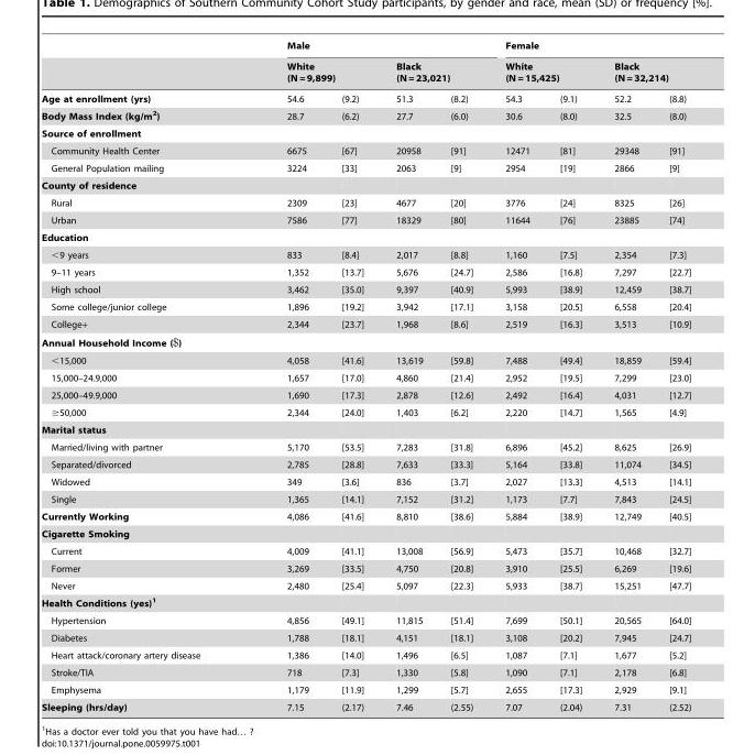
<table><thead><tr><td rowspan="3">Age at enrollment (yrs)</td><td colspan="4">Male</td><td colspan="4">Female</td></tr><tr><td colspan="2">White (N = 9,899)</td><td colspan="2">Black (N = 23,021)</td><td colspan="2">White (N = 15,425)</td><td colspan="2">Black (N = 32,214)</td></tr><tr><td>54.6</td><td>(9.2)</td><td>51.3</td><td>(8.2)</td><td>54.3</td><td>(9.1)</td><td>52.2</td><td>(8.8)</td></tr></thead><tbody><tr><td>Body Mass Index (kg/m<sup>2</sup>)</td><td>28.7</td><td>(6.2)</td><td>27.7</td><td>(6.0)</td><td>30.6</td><td>(8.0)</td><td>32.5</td><td>(8.0)</td></tr><tr><td colspan="9">Source of enrollment</td></tr><tr><td>Community Health Center</td><td>6675</td><td>[67]</td><td>20958</td><td>[91]</td><td>12471</td><td>[81]</td><td>29348</td><td>[91]</td></tr><tr><td>General Population mailing</td><td>3224</td><td>[33]</td><td>2063</td><td>[9]</td><td>2954</td><td>[19]</td><td>2866</td><td>[9]</td></tr><tr><td colspan="9">County of residence</td></tr><tr><td>Rural</td><td>2309</td><td>[23]</td><td>4677</td><td>[20]</td><td>3776</td><td>[24]</td><td>8325</td><td>[26]</td></tr><tr><td>Urban</td><td>7586</td><td>[77]</td><td>18329</td><td>[80]</td><td>11644</td><td>[76]</td><td>23885</td><td>[74]</td></tr><tr><td colspan="9">Education</td></tr><tr><td>&lt;9 years</td><td>833</td><td>[8.4]</td><td>2,017</td><td>[8.8]</td><td>1,160</td><td>[7.5]</td><td>2,354</td><td>[7.3]</td></tr><tr><td>9–11 years</td><td>1,352</td><td>[13.7]</td><td>5,676</td><td>[24.7]</td><td>2,586</td><td>[16.8]</td><td>7,297</td><td>[22.7]</td></tr><tr><td>High school</td><td>3,462</td><td>[35.0]</td><td>9,397</td><td>[40.9]</td><td>5,993</td><td>[38.9]</td><td>12,459</td><td>[38.7]</td></tr><tr><td>Some college/junior college</td><td>1,896</td><td>[19.2]</td><td>3,942</td><td>[17.1]</td><td>3,158</td><td>[20.5]</td><td>6,558</td><td>[20.4]</td></tr><tr><td>College+</td><td>2,344</td><td>[23.7]</td><td>1,968</td><td>[8.6]</td><td>2,519</td><td>[16.3]</td><td>3,513</td><td>[10.9]</td></tr><tr><td colspan="9">Annual Household Income ($)</td></tr><tr><td>&lt;15,000</td><td>4,058</td><td>[41.6]</td><td>13,619</td><td>[59.8]</td><td>7,488</td><td>[49.4]</td><td>18,859</td><td>[59.4]</td></tr><tr><td>15,000–24.9,000</td><td>1,657</td><td>[17.0]</td><td>4,860</td><td>[21.4]</td><td>2,952</td><td>[19.5]</td><td>7,299</td><td>[23.0]</td></tr><tr><td>25,000–49.9,000</td><td>1,690</td><td>[17.3]</td><td>2,878</td><td>[12.6]</td><td>2,492</td><td>[16.4]</td><td>4,031</td><td>[12.7]</td></tr><tr><td>≥50,000</td><td>2,344</td><td>[24.0]</td><td>1,403</td><td>[6.2]</td><td>2,220</td><td>[14.7]</td><td>1,565</td><td>[4.9]</td></tr><tr><td colspan="9">Marital status</td></tr><tr><td>Married/living with partner</td><td>5,170</td><td>[53.5]</td><td>7,283</td><td>[31.8]</td><td>6,896</td><td>[45.2]</td><td>8,625</td><td>[26.9]</td></tr><tr><td>Separated/divorced</td><td>2,785</td><td>[28.8]</td><td>7,633</td><td>[33.3]</td><td>5,164</td><td>[33.8]</td><td>11,074</td><td>[34.5]</td></tr><tr><td>Widowed</td><td>349</td><td>[3.6]</td><td>836</td><td>[3.7]</td><td>2,027</td><td>[13.3]</td><td>4,513</td><td>[14.1]</td></tr><tr><td>Single</td><td>1,365</td><td>[14.1]</td><td>7,152</td><td>[31.2]</td><td>1,173</td><td>[7.7]</td><td>7,843</td><td>[24.5]</td></tr><tr><td>Currently Working</td><td>4,086</td><td>[41.6]</td><td>8,810</td><td>[38.6]</td><td>5,884</td><td>[38.9]</td><td>12,749</td><td>[40.5]</td></tr><tr><td colspan="9">Cigarette Smoking</td></tr><tr><td>Current</td><td>4,009</td><td>[41.1]</td><td>13,008</td><td>[56.9]</td><td>5,473</td><td>[35.7]</td><td>10,468</td><td>[32.7]</td></tr><tr><td>Former</td><td>3,269</td><td>[33.5]</td><td>4,750</td><td>[20.8]</td><td>3,910</td><td>[25.5]</td><td>6,269</td><td>[19.6]</td></tr><tr><td>Never</td><td>2,480</td><td>[25.4]</td><td>5,097</td><td>[22.3]</td><td>5,933</td><td>[38.7]</td><td>15,251</td><td>[47.7]</td></tr><tr><td colspan="9">Health Conditions (yes)1</td></tr><tr><td>Hypertension</td><td>4,856</td><td>[49.1]</td><td>11,815</td><td>[51.4]</td><td>7,699</td><td>[50.1]</td><td>20,565</td><td>[64.0]</td></tr><tr><td>Diabetes</td><td>1,788</td><td>[18.1]</td><td>4,151</td><td>[18.1]</td><td>3,108</td><td>[20.2]</td><td>7,945</td><td>[24.7]</td></tr><tr><td>Heart attack/coronary artery disease</td><td>1,386</td><td>[14.0]</td><td>1,496</td><td>[6.5]</td><td>1,087</td><td>[7.1]</td><td>1,677</td><td>[5.2]</td></tr><tr><td>Stroke/TIA</td><td>718</td><td>[7.3]</td><td>1,330</td><td>[5.8]</td><td>1,090</td><td>[7.1]</td><td>2,178</td><td>[6.8]</td></tr><tr><td>Emphysema</td><td>1,179</td><td>[11.9]</td><td>1,299</td><td>[5.7]</td><td>2,655</td><td>[17.3]</td><td>2,929</td><td>[9.1]</td></tr><tr><td>Sleeping (hrs/day)</td><td>7.15</td><td>(2.17)</td><td>7.46</td><td>(2.55)</td><td>7.07</td><td>(2.04)</td><td>7.31</td><td>(2.52)</td></tr></tbody></table>